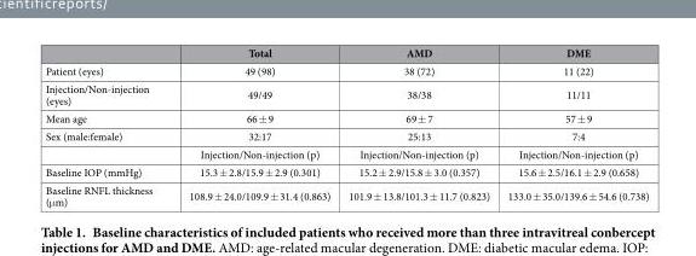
<table><thead><tr><td></td><td>Total</td><td>AMD</td><td>DME</td></tr></thead><tbody><tr><td>Patient (eyes)</td><td>49 (98)</td><td>38 (72)</td><td>11 (22)</td></tr><tr><td>Injection/Non-injection (eyes)</td><td>49/49</td><td>38/38</td><td>11/11</td></tr><tr><td>Mean age</td><td>66 ± 9</td><td>69 ± 7</td><td>57 ± 9</td></tr><tr><td rowspan="2">Sex (male:female)</td><td>32:17</td><td>25:13</td><td>7:4</td></tr><tr><td>Injection/Non-injection (p)</td><td>Injection/Non-injection (p)</td><td>Injection/Non-injection (p)</td></tr><tr><td>Baseline IOP (mmHg)</td><td>15.3 ± 2.8/15.9 ± 2.9 (0.301)</td><td>15.2 ± 2.9/15.8 ± 3.0 (0.357)</td><td>15.6 ± 2.5/16.1 ± 2.9 (0.658)</td></tr><tr><td>Baseline RNFL thickness (μ m)</td><td>108.9 ± 24.0/109.9 ± 31.4 (0.863)</td><td>101.9 ± 13.8/101.3 ± 11.7 (0.823)</td><td>133.0 ± 35.0/139.6 ± 54.6 (0.738)</td></tr></tbody></table>